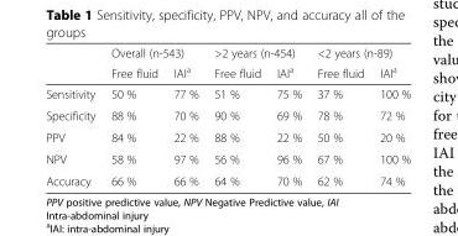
<table><thead><tr><td rowspan="2"></td><td colspan="2">Overall (n-543)</td><td colspan="2">&gt;2 years (n-454)</td><td colspan="2">&lt;2 years (n-89)</td></tr><tr><td>Free fluid</td><td>IAI<sup>a</sup></td><td>Free fluid</td><td>IAI<sup>a</sup></td><td>Free fluid</td><td>IAI<sup>a</sup></td></tr></thead><tbody><tr><td>Sensitivity</td><td>50 %</td><td>77 %</td><td>51 %</td><td>75 %</td><td>37 %</td><td>100 %</td></tr><tr><td>Specificity</td><td>88 %</td><td>70 %</td><td>90 %</td><td>69 %</td><td>78 %</td><td>72 %</td></tr><tr><td>PPV</td><td>84 %</td><td>22 %</td><td>88 %</td><td>22 %</td><td>50 %</td><td>20 %</td></tr><tr><td>NPV</td><td>58 %</td><td>97 %</td><td>56 %</td><td>96 %</td><td>67 %</td><td>100 %</td></tr><tr><td>Accuracy</td><td>66 %</td><td>66 %</td><td>64 %</td><td>70 %</td><td>62 %</td><td>74 %</td></tr></tbody></table>